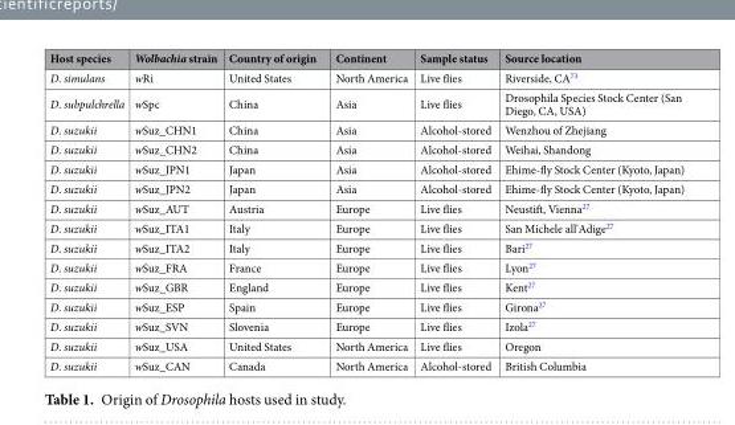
<table><thead><tr><td>Host species</td><td>Wolbachia strain</td><td>Country of origin</td><td>Continent</td><td>Sample status</td><td>Source location</td></tr></thead><tbody><tr><td>D. simulans</td><td>wRi</td><td>United States</td><td>North America</td><td>Live flies</td><td>Riverside, CA<sup>73</sup></td></tr><tr><td>D. subpulchrella</td><td>wSpc</td><td>China</td><td>Asia</td><td>Live flies</td><td>Drosophila Species Stock Center (San Diego, CA, USA)</td></tr><tr><td>D. suzukii</td><td>wSuz_CHN1</td><td>China</td><td>Asia</td><td>Alcohol-stored</td><td>Wenzhou of Zhejiang</td></tr><tr><td>D. suzukii</td><td>wSuz_CHN2</td><td>China</td><td>Asia</td><td>Alcohol-stored</td><td>Weihai, Shandong</td></tr><tr><td>D. suzukii</td><td>wSuz_JPN1</td><td>Japan</td><td>Asia</td><td>Alcohol-stored</td><td>Ehime-fly Stock Center (Kyoto, Japan)</td></tr><tr><td>D. suzukii</td><td>wSuz_JPN2</td><td>Japan</td><td>Asia</td><td>Alcohol-stored</td><td>Ehime-fly Stock Center (Kyoto, Japan)</td></tr><tr><td>D. suzukii</td><td>wSuz_AUT</td><td>Austria</td><td>Europe</td><td>Live flies</td><td>Neustift, Vienna<sup>27</sup></td></tr><tr><td>D. suzukii</td><td>wSuz_ITA1</td><td>Italy</td><td>Europe</td><td>Live flies</td><td>San Michele all&#x27;Adige<sup>27</sup></td></tr><tr><td>D. suzukii</td><td>wSuz_ITA2</td><td>Italy</td><td>Europe</td><td>Live flies</td><td>Bari<sup>27</sup></td></tr><tr><td>D. suzukii</td><td>wSuz_FRA</td><td>France</td><td>Europe</td><td>Live flies</td><td>Lyon<sup>27</sup></td></tr><tr><td>D. suzukii</td><td>wSuz_GBR</td><td>England</td><td>Europe</td><td>Live flies</td><td>Kent<sup>27</sup></td></tr><tr><td>D. suzukii</td><td>wSuz_ESP</td><td>Spain</td><td>Europe</td><td>Live flies</td><td>Girona<sup>27</sup></td></tr><tr><td>D. suzukii</td><td>wSuz_SVN</td><td>Slovenia</td><td>Europe</td><td>Live flies</td><td>Izola<sup>27</sup></td></tr><tr><td>D. suzukii</td><td>wSuz_USA</td><td>United States</td><td>North America</td><td>Live flies</td><td>Oregon</td></tr><tr><td>D. suzukii</td><td>wSuz_CAN</td><td>Canada</td><td>North America</td><td>Alcohol-stored</td><td>British Columbia</td></tr></tbody></table>